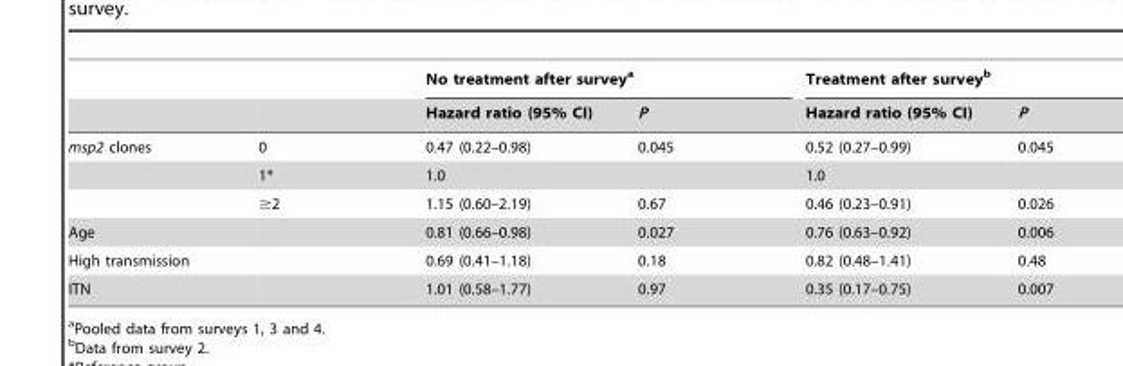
<table><thead><tr><td rowspan="2"></td><td rowspan="2"></td><td colspan="2">No treatment after survey<sup>a</sup></td><td colspan="2">Treatment after survey<sup>b</sup></td></tr><tr><td>Hazard ratio (95% CI)</td><td>P</td><td>Hazard ratio (95% CI)</td><td>P</td></tr></thead><tbody><tr><td rowspan="3">msp2 clones</td><td>0</td><td>0.47 (0.22–0.98)</td><td>0.045</td><td>0.52 (0.27–0.99)</td><td>0.045</td></tr><tr><td>1*</td><td>1.0</td><td></td><td>1.0</td><td></td></tr><tr><td>≥2</td><td>1.15 (0.60–2.19)</td><td>0.67</td><td>0.46 (0.23–0.91)</td><td>0.026</td></tr><tr><td>Age</td><td></td><td>0.81 (0.66–0.98)</td><td>0.027</td><td>0.76 (0.63–0.92)</td><td>0.006</td></tr><tr><td>High transmission</td><td></td><td>0.69 (0.41–1.18)</td><td>0.18</td><td>0.82 (0.48–1.41)</td><td>0.48</td></tr><tr><td>ITN</td><td></td><td>1.01 (0.58–1.77)</td><td>0.97</td><td>0.35 (0.17–0.75)</td><td>0.007</td></tr></tbody></table>